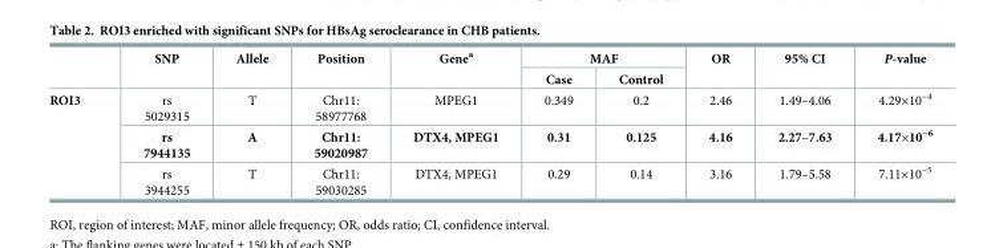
<table><thead><tr><td rowspan="2"></td><td rowspan="2">SNP</td><td rowspan="2">Allele</td><td rowspan="2">Position</td><td rowspan="2">Gene<sup>a</sup></td><td colspan="2">MAF</td><td rowspan="2">OR</td><td rowspan="2">95% CI</td><td rowspan="2">P-value</td></tr><tr><td>Case</td><td>Control</td></tr></thead><tbody><tr><td rowspan="3">ROI3</td><td>rs 5029315</td><td>T</td><td>Chr11: 58977768</td><td>MPEG1</td><td>0.349</td><td>0.2</td><td>2.46</td><td>1.49–4.06</td><td>4.29×10<sup>−4</sup></td></tr><tr><td>rs 7944135</td><td>A</td><td>Chr11: 59020987</td><td>DTX4, MPEG1</td><td>0.31</td><td>0.125</td><td>4.16</td><td>2.27–7.63</td><td>4.17×10<sup>−6</sup></td></tr><tr><td>rs 3944255</td><td>T</td><td>Chr11: 59030285</td><td>DTX4, MPEG1</td><td>0.29</td><td>0.14</td><td>3.16</td><td>1.79–5.58</td><td>7.11×10<sup>−5</sup></td></tr></tbody></table>